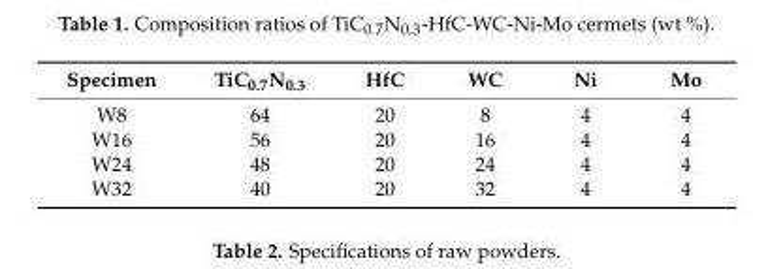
<table><thead><tr><td>Specimen</td><td>TiC<sub>0.7</sub>N<sub>0.3</sub></td><td>HfC</td><td>WC</td><td>Ni</td><td>Mo</td></tr></thead><tbody><tr><td>W8</td><td>64</td><td>20</td><td>8</td><td>4</td><td>4</td></tr><tr><td>W16</td><td>56</td><td>20</td><td>16</td><td>4</td><td>4</td></tr><tr><td>W24</td><td>48</td><td>20</td><td>24</td><td>4</td><td>4</td></tr><tr><td>W32</td><td>40</td><td>20</td><td>32</td><td>4</td><td>4</td></tr></tbody></table>